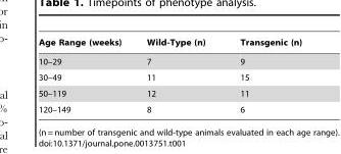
<table><thead><tr><td>Age Range (weeks)</td><td>Wild-Type (n)</td><td>Transgenic (n)</td></tr></thead><tbody><tr><td>10–29</td><td>7</td><td>9</td></tr><tr><td>30–49</td><td>11</td><td>15</td></tr><tr><td>50–119</td><td>12</td><td>11</td></tr><tr><td>120–149</td><td>8</td><td>6</td></tr></tbody></table>